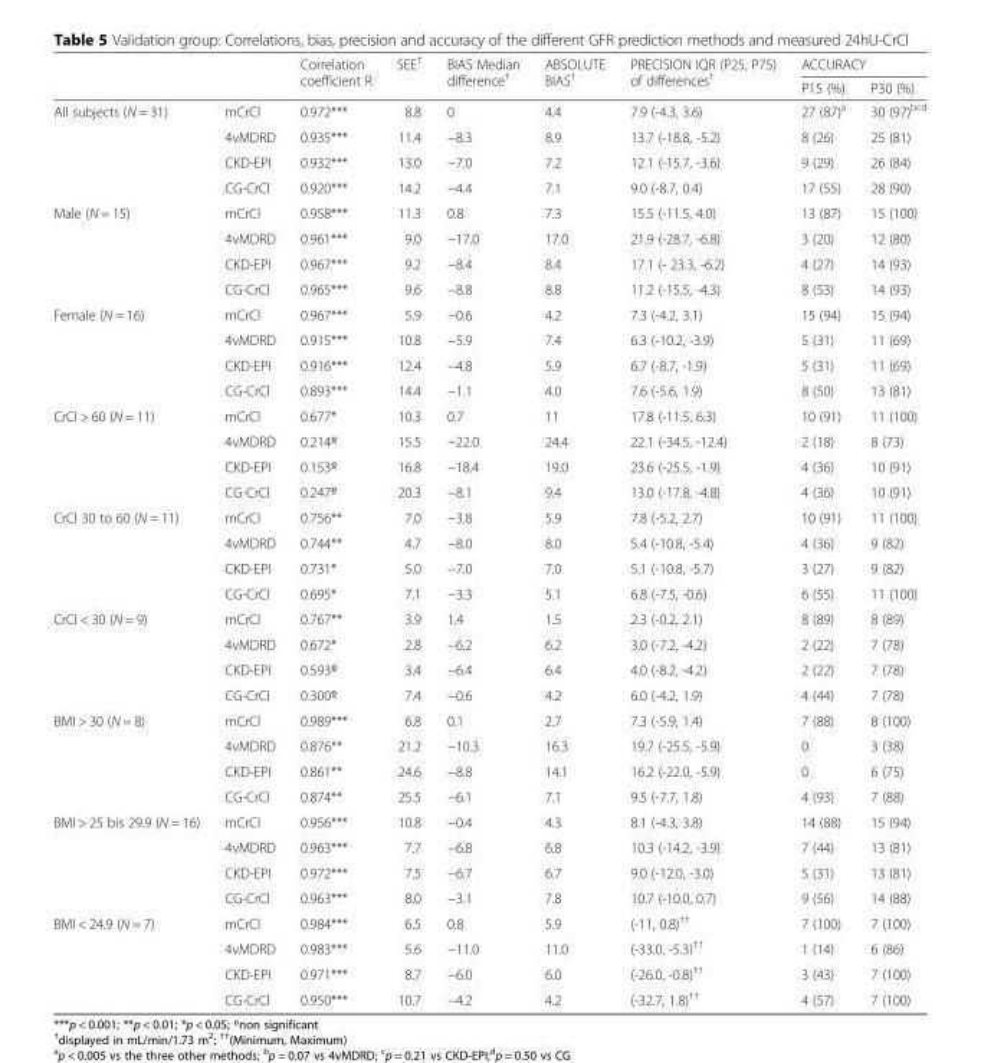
<table><thead><tr><td rowspan="2"></td><td rowspan="2"></td><td rowspan="2">Correlation coefficient R</td><td rowspan="2">SEE<sup>†</sup></td><td rowspan="2">BIAS Median difference<sup>†</sup></td><td rowspan="2">ABSOLUTE BIAS<sup>†</sup></td><td rowspan="2">PRECISION IQR (P25, P75) of differences<sup>†</sup></td><td colspan="2">ACCURACY</td></tr><tr><td>P15 (%)</td><td>P30 (%)</td></tr></thead><tbody><tr><td rowspan="4">All subjects (N = 31)</td><td>mCrCl</td><td>0.972***</td><td>8.8</td><td>0</td><td>4.4</td><td>7.9 (-4.3, 3.6)</td><td>27 (87)<sup>a</sup></td><td>30 (97)<sup>bcd</sup></td></tr><tr><td>4vMDRD</td><td>0.935***</td><td>11.4</td><td>−8.3</td><td>8.9</td><td>13.7 (-18.8, -5.2)</td><td>8 (26)</td><td>25 (81)</td></tr><tr><td>CKD-EPI</td><td>0.932***</td><td>13.0</td><td>−7.0</td><td>7.2</td><td>12.1 (-15.7, -3.6)</td><td>9 (29)</td><td>26 (84)</td></tr><tr><td>CG-CrCl</td><td>0.920***</td><td>14.2</td><td>−4.4</td><td>7.1</td><td>9.0 (-8.7, 0.4)</td><td>17 (55)</td><td>28 (90)</td></tr><tr><td rowspan="4">Male (N = 15)</td><td>mCrCl</td><td>0.958***</td><td>11.3</td><td>0.8</td><td>7.3</td><td>15.5 (-11.5, 4.0)</td><td>13 (87)</td><td>15 (100)</td></tr><tr><td>4vMDRD</td><td>0.961***</td><td>9.0</td><td>−17.0</td><td>17.0</td><td>21.9 (-28.7, -6.8)</td><td>3 (20)</td><td>12 (80)</td></tr><tr><td>CKD-EPI</td><td>0.967***</td><td>9.2</td><td>−8.4</td><td>8.4</td><td>17.1 (- 23.3, -6.2)</td><td>4 (27)</td><td>14 (93)</td></tr><tr><td>CG-CrCl</td><td>0.965***</td><td>9.6</td><td>−8.8</td><td>8.8</td><td>11.2 (-15.5, -4.3)</td><td>8 (53)</td><td>14 (93)</td></tr><tr><td rowspan="4">Female (N = 16)</td><td>mCrCl</td><td>0.967***</td><td>5.9</td><td>−0.6</td><td>4.2</td><td>7.3 (-4.2, 3.1)</td><td>15 (94)</td><td>15 (94)</td></tr><tr><td>4vMDRD</td><td>0.915***</td><td>10.8</td><td>−5.9</td><td>7.4</td><td>6.3 (-10.2, -3.9)</td><td>5 (31)</td><td>11 (69)</td></tr><tr><td>CKD-EPI</td><td>0.916***</td><td>12.4</td><td>−4.8</td><td>5.9</td><td>6.7 (-8.7, -1.9)</td><td>5 (31)</td><td>11 (69)</td></tr><tr><td>CG-CrCl</td><td>0.893***</td><td>14.4</td><td>−1.1</td><td>4.0</td><td>7.6 (-5.6, 1.9)</td><td>8 (50)</td><td>13 (81)</td></tr><tr><td rowspan="4">CrCl &gt; 60 (N = 11)</td><td>mCrCl</td><td>0.677*</td><td>10.3</td><td>0.7</td><td>11</td><td>17.8 (-11.5, 6.3)</td><td>10 (91)</td><td>11 (100)</td></tr><tr><td>4vMDRD</td><td>0.214º</td><td>15.5</td><td>−22.0</td><td>24.4</td><td>22.1 (-34.5, -12.4)</td><td>2 (18)</td><td>8 (73)</td></tr><tr><td>CKD-EPI</td><td>0.153º</td><td>16.8</td><td>−18.4</td><td>19.0</td><td>23.6 (-25.5, -1.9)</td><td>4 (36)</td><td>10 (91)</td></tr><tr><td>CG-CrCl</td><td>0.247º</td><td>20.3</td><td>−8.1</td><td>9.4</td><td>13.0 (-17.8, -4.8)</td><td>4 (36)</td><td>10 (91)</td></tr><tr><td rowspan="4">CrCl 30 to 60 (N = 11)</td><td>mCrCl</td><td>0.756**</td><td>7.0</td><td>−3.8</td><td>5.9</td><td>7.8 (-5.2, 2.7)</td><td>10 (91)</td><td>11 (100)</td></tr><tr><td>4vMDRD</td><td>0.744**</td><td>4.7</td><td>−8.0</td><td>8.0</td><td>5.4 (-10.8, -5.4)</td><td>4 (36)</td><td>9 (82)</td></tr><tr><td>CKD-EPI</td><td>0.731*</td><td>5.0</td><td>−7.0</td><td>7.0</td><td>5.1 (-10.8, -5.7)</td><td>3 (27)</td><td>9 (82)</td></tr><tr><td>CG-CrCl</td><td>0.695*</td><td>7.1</td><td>−3.3</td><td>5.1</td><td>6.8 (-7.5, -0.6)</td><td>6 (55)</td><td>11 (100)</td></tr><tr><td rowspan="4">CrCl &lt; 30 (N = 9)</td><td>mCrCl</td><td>0.767**</td><td>3.9</td><td>1.4</td><td>1.5</td><td>2.3 (-0.2, 2.1)</td><td>8 (89)</td><td>8 (89)</td></tr><tr><td>4vMDRD</td><td>0.672*</td><td>2.8</td><td>−6.2</td><td>6.2</td><td>3.0 (-7.2, -4.2)</td><td>2 (22)</td><td>7 (78)</td></tr><tr><td>CKD-EPI</td><td>0.593º</td><td>3.4</td><td>−6.4</td><td>6.4</td><td>4.0 (-8.2, -4.2)</td><td>2 (22)</td><td>7 (78)</td></tr><tr><td>CG-CrCl</td><td>0.300º</td><td>7.4</td><td>−0.6</td><td>4.2</td><td>6.0 (-4.2, 1.9)</td><td>4 (44)</td><td>7 (78)</td></tr><tr><td rowspan="4">BMI &gt; 30 (N = 8)</td><td>mCrCl</td><td>0.989***</td><td>6.8</td><td>0.1</td><td>2.7</td><td>7.3 (-5.9, 1.4)</td><td>7 (88)</td><td>8 (100)</td></tr><tr><td>4vMDRD</td><td>0.876**</td><td>21.2</td><td>−10.3</td><td>16.3</td><td>19.7 (-25.5, -5.9)</td><td>0</td><td>3 (38)</td></tr><tr><td>CKD-EPI</td><td>0.861**</td><td>24.6</td><td>−8.8</td><td>14.1</td><td>16.2 (-22.0, -5.9)</td><td>0</td><td>6 (75)</td></tr><tr><td>CG-CrCl</td><td>0.874**</td><td>25.5</td><td>−6.1</td><td>7.1</td><td>9.5 (-7.7, 1.8)</td><td>4 (93)</td><td>7 (88)</td></tr><tr><td rowspan="4">BMI &gt; 25 bis 29.9 (N = 16)</td><td>mCrCl</td><td>0.956***</td><td>10.8</td><td>−0.4</td><td>4.3</td><td>8.1 (-4.3, 3.8)</td><td>14 (88)</td><td>15 (94)</td></tr><tr><td>4vMDRD</td><td>0.963***</td><td>7.7</td><td>−6.8</td><td>6.8</td><td>10.3 (-14.2, -3.9)</td><td>7 (44)</td><td>13 (81)</td></tr><tr><td>CKD-EPI</td><td>0.972***</td><td>7.5</td><td>−6.7</td><td>6.7</td><td>9.0 (-12.0, -3.0)</td><td>5 (31)</td><td>13 (81)</td></tr><tr><td>CG-CrCl</td><td>0.963***</td><td>8.0</td><td>−3.1</td><td>7.8</td><td>10.7 (-10.0, 0.7)</td><td>9 (56)</td><td>14 (88)</td></tr><tr><td rowspan="4">BMI &lt; 24.9 (N = 7)</td><td>mCrCl</td><td>0.984***</td><td>6.5</td><td>0.8</td><td>5.9</td><td>(-11, 0.8)<sup>††</sup></td><td>7 (100)</td><td>7 (100)</td></tr><tr><td>4vMDRD</td><td>0.983***</td><td>5.6</td><td>−11.0</td><td>11.0</td><td>(-33.0, -5.3)<sup>††</sup></td><td>1 (14)</td><td>6 (86)</td></tr><tr><td>CKD-EPI</td><td>0.971***</td><td>8.7</td><td>−6.0</td><td>6.0</td><td>(-26.0, -0.8)<sup>††</sup></td><td>3 (43)</td><td>7 (100)</td></tr><tr><td>CG-CrCl</td><td>0.950***</td><td>10.7</td><td>−4.2</td><td>4.2</td><td>(-32.7, 1.8)<sup>††</sup></td><td>4 (57)</td><td>7 (100)</td></tr></tbody></table>